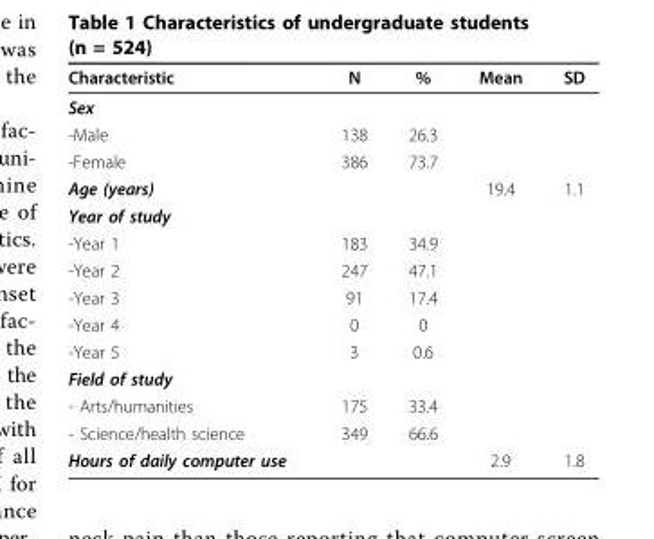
<table><thead><tr><td>Characteristic</td><td>N</td><td>%</td><td>Mean</td><td>SD</td></tr></thead><tbody><tr><td colspan="5">Sex</td></tr><tr><td>-Male</td><td>138</td><td>26.3</td><td></td><td></td></tr><tr><td>-Female</td><td>386</td><td>73.7</td><td></td><td></td></tr><tr><td>Age (years)</td><td></td><td></td><td>19.4</td><td>1.1</td></tr><tr><td colspan="5">Year of study</td></tr><tr><td>-Year 1</td><td>183</td><td>34.9</td><td></td><td></td></tr><tr><td>-Year 2</td><td>247</td><td>47.1</td><td></td><td></td></tr><tr><td>-Year 3</td><td>91</td><td>17.4</td><td></td><td></td></tr><tr><td>-Year 4</td><td>0</td><td>0</td><td></td><td></td></tr><tr><td>-Year 5</td><td>3</td><td>0.6</td><td></td><td></td></tr><tr><td colspan="5">Field of study</td></tr><tr><td>- Arts/humanities</td><td>175</td><td>33.4</td><td></td><td></td></tr><tr><td>- Science/health science</td><td>349</td><td>66.6</td><td></td><td></td></tr><tr><td>Hours of daily computer use</td><td></td><td></td><td>2.9</td><td>1.8</td></tr></tbody></table>